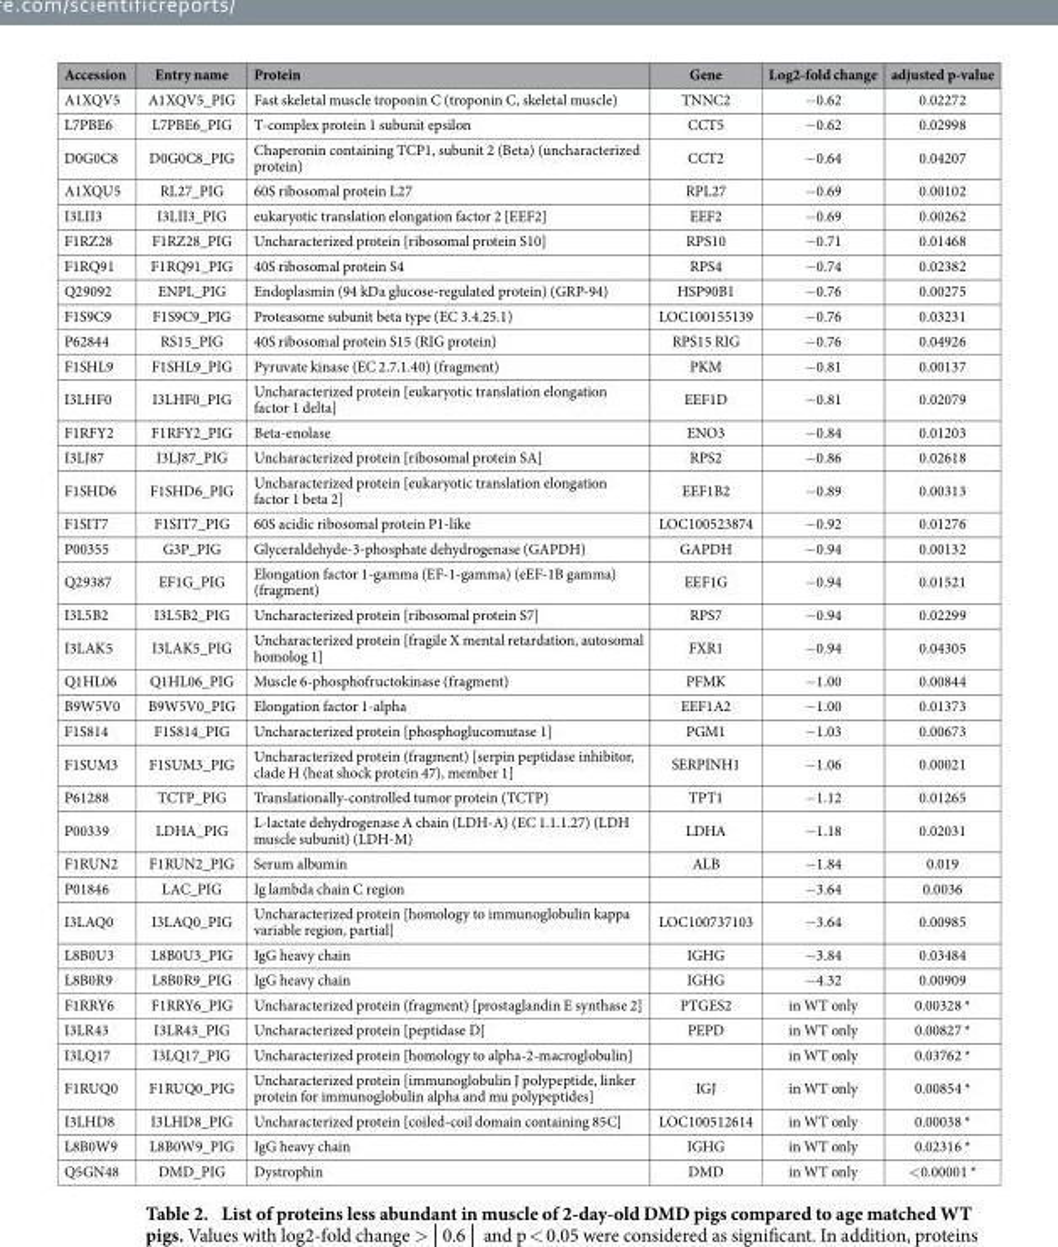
<table><thead><tr><td>Accession</td><td>Entry name</td><td>Protein</td><td>Gene</td><td>Log2-fold change</td><td>adjusted p-value</td></tr></thead><tbody><tr><td>A1XQV5</td><td>A1XQV5_PIG</td><td>Fast skeletal muscle troponin C (troponin C, skeletal muscle)</td><td>TNNC2</td><td>− 0.62</td><td>0.02272</td></tr><tr><td>L7PBE6</td><td>L7PBE6_PIG</td><td>T-complex protein 1 subunit epsilon</td><td>CCT5</td><td>− 0.62</td><td>0.02998</td></tr><tr><td>D0G0C8</td><td>D0G0C8_PIG</td><td>Chaperonin containing TCP1, subunit 2 (Beta) (uncharacterized protein)</td><td>CCT2</td><td>− 0.64</td><td>0.04207</td></tr><tr><td>A1XQU5</td><td>RL27_PIG</td><td>60S ribosomal protein L27</td><td>RPL27</td><td>− 0.69</td><td>0.00102</td></tr><tr><td>I3LII3</td><td>I3LII3_PIG</td><td>eukaryotic translation elongation factor 2 [EEF2]</td><td>EEF2</td><td>− 0.69</td><td>0.00262</td></tr><tr><td>F1RZ28</td><td>F1RZ28_PIG</td><td>Uncharacterized protein [ribosomal protein S10]</td><td>RPS10</td><td>− 0.71</td><td>0.01468</td></tr><tr><td>F1RQ91</td><td>F1RQ91_PIG</td><td>40S ribosomal protein S4</td><td>RPS4</td><td>− 0.74</td><td>0.02382</td></tr><tr><td>Q29092</td><td>ENPL_PIG</td><td>Endoplasmin (94 kDa glucose-regulated protein) (GRP-94)</td><td>HSP90B1</td><td>− 0.76</td><td>0.00275</td></tr><tr><td>F1S9C9</td><td>F1S9C9_PIG</td><td>Proteasome subunit beta type (EC 3.4.25.1)</td><td>LOC100155139</td><td>− 0.76</td><td>0.03231</td></tr><tr><td>P62844</td><td>RS15_PIG</td><td>40S ribosomal protein S15 (RIG protein)</td><td>RPS15 RIG</td><td>− 0.76</td><td>0.04926</td></tr><tr><td>F1SHL9</td><td>F1SHL9_PIG</td><td>Pyruvate kinase (EC 2.7.1.40) (fragment)</td><td>PKM</td><td>− 0.81</td><td>0.00137</td></tr><tr><td>I3LHF0</td><td>I3LHF0_PIG</td><td>Uncharacterized protein [eukaryotic translation elongation factor 1 delta]</td><td>EEF1D</td><td>− 0.81</td><td>0.02079</td></tr><tr><td>F1RFY2</td><td>F1RFY2_PIG</td><td>Beta-enolase</td><td>ENO3</td><td>− 0.84</td><td>0.01203</td></tr><tr><td>I3LJ87</td><td>I3LJ87_PIG</td><td>Uncharacterized protein [ribosomal protein SA]</td><td>RPS2</td><td>− 0.86</td><td>0.02618</td></tr><tr><td>F1SHD6</td><td>F1SHD6_PIG</td><td>Uncharacterized protein [eukaryotic translation elongation factor 1 beta 2]</td><td>EEF1B2</td><td>− 0.89</td><td>0.00313</td></tr><tr><td>F1SIT7</td><td>F1SIT7_PIG</td><td>60S acidic ribosomal protein P1-like</td><td>LOC100523874</td><td>− 0.92</td><td>0.01276</td></tr><tr><td>P00355</td><td>G3P_PIG</td><td>Glyceraldehyde-3-phosphate dehydrogenase (GAPDH)</td><td>GAPDH</td><td>− 0.94</td><td>0.00132</td></tr><tr><td>Q29387</td><td>EF1G_PIG</td><td>Elongation factor 1-gamma (EF-1-gamma) (eEF-1B gamma) (fragment)</td><td>EEF1G</td><td>− 0.94</td><td>0.01521</td></tr><tr><td>I3L5B2</td><td>I3L5B2_PIG</td><td>Uncharacterized protein [ribosomal protein S7]</td><td>RPS7</td><td>− 0.94</td><td>0.02299</td></tr><tr><td>I3LAK5</td><td>I3LAK5_PIG</td><td>Uncharacterized protein [fragile X mental retardation, autosomal homolog 1]</td><td>FXR1</td><td>− 0.94</td><td>0.04305</td></tr><tr><td>Q1HL06</td><td>Q1HL06_PIG</td><td>Muscle 6-phosphofructokinase (fragment)</td><td>PFMK</td><td>− 1.00</td><td>0.00844</td></tr><tr><td>B9W5V0</td><td>B9W5V0_PIG</td><td>Elongation factor 1-alpha</td><td>EEF1A2</td><td>− 1.00</td><td>0.01373</td></tr><tr><td>F1S814</td><td>F1S814_PIG</td><td>Uncharacterized protein [phosphoglucomutase 1]</td><td>PGM1</td><td>− 1.03</td><td>0.00673</td></tr><tr><td>F1SUM3</td><td>F1SUM3_PIG</td><td>Uncharacterized protein (fragment) [serpin peptidase inhibitor, clade H (heat shock protein 47), member 1]</td><td>SERPINH1</td><td>− 1.06</td><td>0.00021</td></tr><tr><td>P61288</td><td>TCTP_PIG</td><td>Translationally-controlled tumor protein (TCTP)</td><td>TPT1</td><td>− 1.12</td><td>0.01265</td></tr><tr><td>P00339</td><td>LDHA_PIG</td><td>L-lactate dehydrogenase A chain (LDH-A) (EC 1.1.1.27) (LDH muscle subunit) (LDH-M)</td><td>LDHA</td><td>− 1.18</td><td>0.02031</td></tr><tr><td>F1RUN2</td><td>F1RUN2_PIG</td><td>Serum albumin</td><td>ALB</td><td>− 1.84</td><td>0.019</td></tr><tr><td>P01846</td><td>LAC_PIG</td><td>Ig lambda chain C region</td><td></td><td>− 3.64</td><td>0.0036</td></tr><tr><td>I3LAQ0</td><td>I3LAQ0_PIG</td><td>Uncharacterized protein [homology to immunoglobulin kappa variable region, partial]</td><td>LOC100737103</td><td>− 3.64</td><td>0.00985</td></tr><tr><td>L8B0U3</td><td>L8B0U3_PIG</td><td>IgG heavy chain</td><td>IGHG</td><td>− 3.84</td><td>0.03484</td></tr><tr><td>L8B0R9</td><td>L8B0R9_PIG</td><td>IgG heavy chain</td><td>IGHG</td><td>− 4.32</td><td>0.00909</td></tr><tr><td>F1RRY6</td><td>F1RRY6_PIG</td><td>Uncharacterized protein (fragment) [prostaglandin E synthase 2]</td><td>PTGES2</td><td>in WT only</td><td>0.00328 *</td></tr><tr><td>I3LR43</td><td>I3LR43_PIG</td><td>Uncharacterized protein [peptidase D]</td><td>PEPD</td><td>in WT only</td><td>0.00827 *</td></tr><tr><td>I3LQ17</td><td>I3LQ17_PIG</td><td>Uncharacterized protein [homology to alpha-2-macroglobulin]</td><td></td><td>in WT only</td><td>0.03762 *</td></tr><tr><td>F1RUQ0</td><td>F1RUQ0_PIG</td><td>Uncharacterized protein [immunoglobulin J polypeptide, linker protein for immunoglobulin alpha and mu polypeptides]</td><td>IGJ</td><td>in WT only</td><td>0.00854 *</td></tr><tr><td>I3LHD8</td><td>I3LHD8_PIG</td><td>Uncharacterized protein [coiled-coil domain containing 85C]</td><td>LOC100512614</td><td>in WT only</td><td>0.00038 *</td></tr><tr><td>L8B0W9</td><td>L8B0W9_PIG</td><td>IgG heavy chain</td><td>IGHG</td><td>in WT only</td><td>0.02316 *</td></tr><tr><td>Q5GN48</td><td>DMD_PIG</td><td>Dystrophin</td><td>DMD</td><td>in WT only</td><td>&lt; 0.00001 *</td></tr></tbody></table>